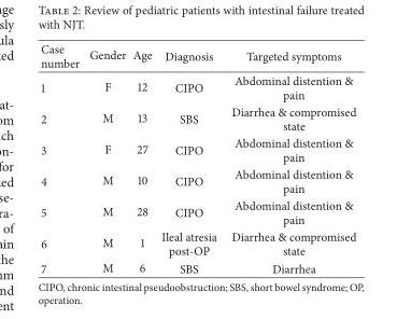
<table><thead><tr><td>Case number</td><td>Gender</td><td>Age</td><td>Diagnosis</td><td>Targeted symptoms</td></tr></thead><tbody><tr><td>1</td><td>F</td><td>12</td><td>CIPO</td><td>Abdominal distention &amp; pain</td></tr><tr><td>2</td><td>M</td><td>13</td><td>SBS</td><td>Diarrhea &amp; compromised state</td></tr><tr><td>3</td><td>F</td><td>27</td><td>CIPO</td><td>Abdominal distention &amp; pain</td></tr><tr><td>4</td><td>M</td><td>10</td><td>CIPO</td><td>Abdominal distention &amp; pain</td></tr><tr><td>5</td><td>M</td><td>28</td><td>CIPO</td><td>Abdominal distention &amp; pain</td></tr><tr><td>6</td><td>M</td><td>1</td><td>Ileal atresia post-OP</td><td>Diarrhea &amp; compromised state</td></tr><tr><td>7</td><td>M</td><td>6</td><td>SBS</td><td>Diarrhea</td></tr></tbody></table>